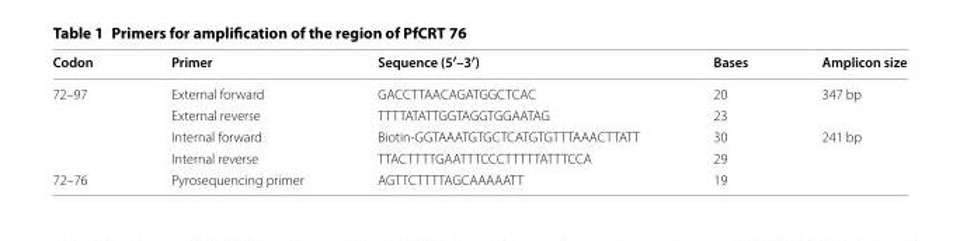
<table><thead><tr><td>Codon</td><td>Primer</td><td>Sequence (5′–3′)</td><td>Bases</td><td>Amplicon size</td></tr></thead><tbody><tr><td rowspan="4">72–97</td><td>External forward</td><td>GACCTTAACAGATGGCTCAC</td><td>20</td><td>347 bp</td></tr><tr><td>External reverse</td><td>TTTTATATTGGTAGGTGGAATAG</td><td>23</td><td></td></tr><tr><td>Internal forward</td><td>Biotin‑GGTAAATGTGCTCATGTGTTTAAACTTATT</td><td>30</td><td>241 bp</td></tr><tr><td>Internal reverse</td><td>TTACTTTTGAATTTCCCTTTTTATTTCCA</td><td>29</td><td></td></tr><tr><td>72–76</td><td>Pyrosequencing primer</td><td>AGTTCTTTTAGCAAAAATT</td><td>19</td><td></td></tr></tbody></table>